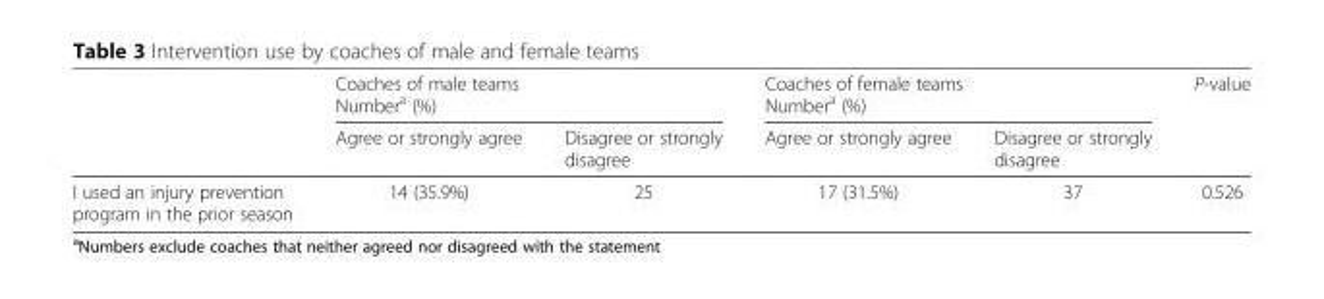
<table><thead><tr><td rowspan="2"></td><td colspan="2">Coaches of male teams Number<sup>a</sup> (%)</td><td colspan="2">Coaches of female teams Number<sup>a</sup> (%)</td><td rowspan="2">P-value</td></tr><tr><td>Agree or strongly agree</td><td>Disagree or strongly disagree</td><td>Agree or strongly agree</td><td>Disagree or strongly disagree</td></tr></thead><tbody><tr><td>I used an injury prevention program in the prior season</td><td>14 (35.9%)</td><td>25</td><td>17 (31.5%)</td><td>37</td><td>0.526</td></tr></tbody></table>